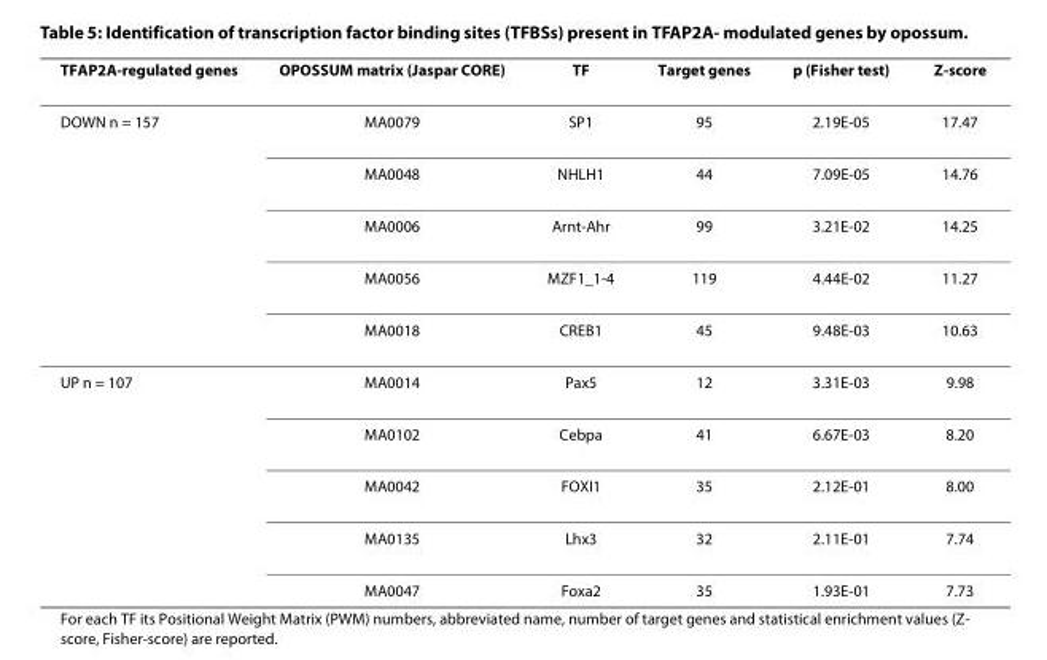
<table><thead><tr><td>TFAP2A-regulated genes</td><td>OPOSSUM matrix (Jaspar CORE)</td><td>TF</td><td>Target genes</td><td>p (Fisher test)</td><td>Z-score</td></tr></thead><tbody><tr><td rowspan="5">DOWN n = 157</td><td>MA0079</td><td>SP1</td><td>95</td><td>2.19E-05</td><td>17.47</td></tr><tr><td>MA0048</td><td>NHLH1</td><td>44</td><td>7.09E-05</td><td>14.76</td></tr><tr><td>MA0006</td><td>Arnt-Ahr</td><td>99</td><td>3.21E-02</td><td>14.25</td></tr><tr><td>MA0056</td><td>MZF1_1-4</td><td>119</td><td>4.44E-02</td><td>11.27</td></tr><tr><td>MA0018</td><td>CREB1</td><td>45</td><td>9.48E-03</td><td>10.63</td></tr><tr><td rowspan="5">UP n = 107</td><td>MA0014</td><td>Pax5</td><td>12</td><td>3.31E-03</td><td>9.98</td></tr><tr><td>MA0102</td><td>Cebpa</td><td>41</td><td>6.67E-03</td><td>8.20</td></tr><tr><td>MA0042</td><td>FOXI1</td><td>35</td><td>2.12E-01</td><td>8.00</td></tr><tr><td>MA0135</td><td>Lhx3</td><td>32</td><td>2.11E-01</td><td>7.74</td></tr><tr><td>MA0047</td><td>Foxa2</td><td>35</td><td>1.93E-01</td><td>7.73</td></tr></tbody></table>